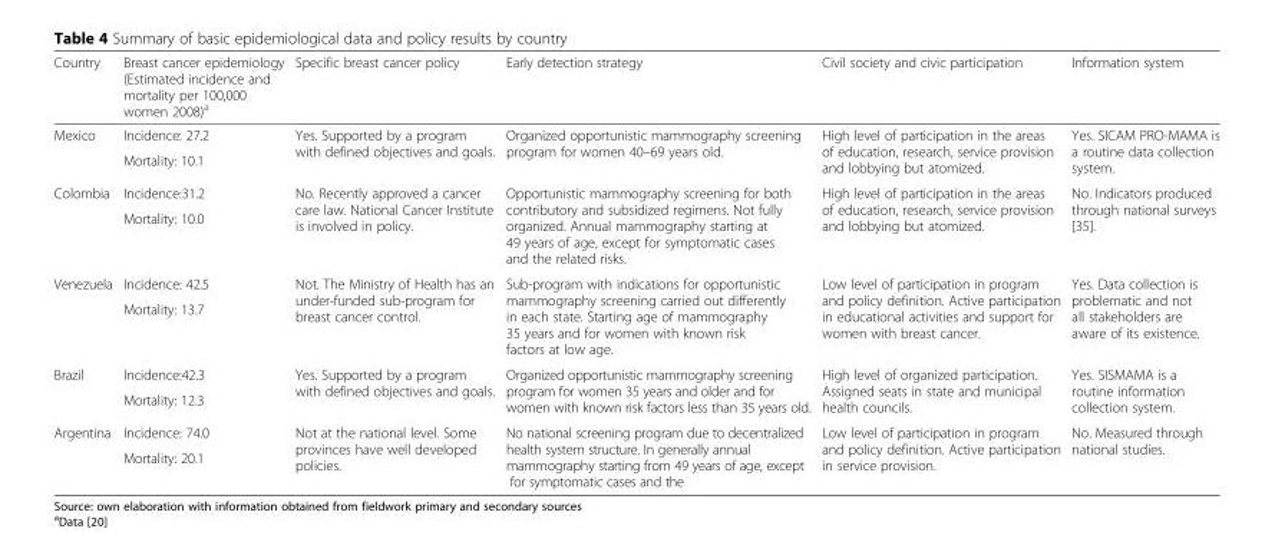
<table><thead><tr><td>Country</td><td>Breast cancer epidemiology (Estimated incidence and mortality per 100,000 women 2008)<sup>a</sup></td><td>Specific breast cancer policy</td><td>Early detection strategy</td><td>Civil society and civic participation</td><td>Information system</td></tr></thead><tbody><tr><td rowspan="2">Mexico</td><td>Incidence: 27.2</td><td rowspan="2">Yes. Supported by a program with defined objectives and goals.</td><td rowspan="2">Organized opportunistic mammography screening program for women 40–69 years old.</td><td rowspan="2">High level of participation in the areas of education, research, service provision and lobbying but atomized.</td><td rowspan="2">Yes. SICAM PRO-MAMA is a routine data collection system.</td></tr><tr><td>Mortality: 10.1</td></tr><tr><td rowspan="2">Colombia</td><td>Incidence:31.2</td><td rowspan="2">No. Recently approved a cancer care law. National Cancer Institute is involved in policy.</td><td rowspan="2">Opportunistic mammography screening for both contributory and subsidized regimens. Not fully organized. Annual mammography starting at 49 years of age, except for symptomatic cases and the related risks.</td><td rowspan="2">High level of participation in the areas of education, research, service provision and lobbying but atomized.</td><td rowspan="2">No. Indicators produced through national surveys [35].</td></tr><tr><td>Mortality: 10.0</td></tr><tr><td rowspan="2">Venezuela</td><td>Incidence: 42.5</td><td rowspan="2">Not. The Ministry of Health has an under-funded sub-program for breast cancer control.</td><td rowspan="2">Sub-program with indications for opportunistic mammography screening carried out differently in each state. Starting age of mammography 35 years and for women with known risk factors at low age.</td><td rowspan="2">Low level of participation in program and policy definition. Active participation in educational activities and support for women with breast cancer.</td><td rowspan="2">Yes. Data collection is problematic and not all stakeholders are aware of its existence.</td></tr><tr><td>Mortality: 13.7</td></tr><tr><td rowspan="2">Brazil</td><td>Incidence:42.3</td><td rowspan="2">Yes. Supported by a program with defined objectives and goals.</td><td rowspan="2">Organized opportunistic mammography screening program for women 35 years and older and for women with known risk factors less than 35 years old.</td><td rowspan="2">High level of organized participation. Assigned seats in state and municipal health councils.</td><td rowspan="2">Yes. SISMAMA is a routine information collection system.</td></tr><tr><td>Mortality: 12.3</td></tr><tr><td rowspan="2">Argentina</td><td>Incidence: 74.0</td><td rowspan="2">Not at the national level. Some provinces have well developed policies.</td><td rowspan="2">No national screening program due to decentralized health system structure. In generally annual mammography starting from 49 years of age, except for symptomatic cases and the</td><td rowspan="2">Low level of participation in program and policy definition. Active participation in service provision.</td><td rowspan="2">No. Measured through national studies.</td></tr><tr><td>Mortality: 20.1</td></tr></tbody></table>